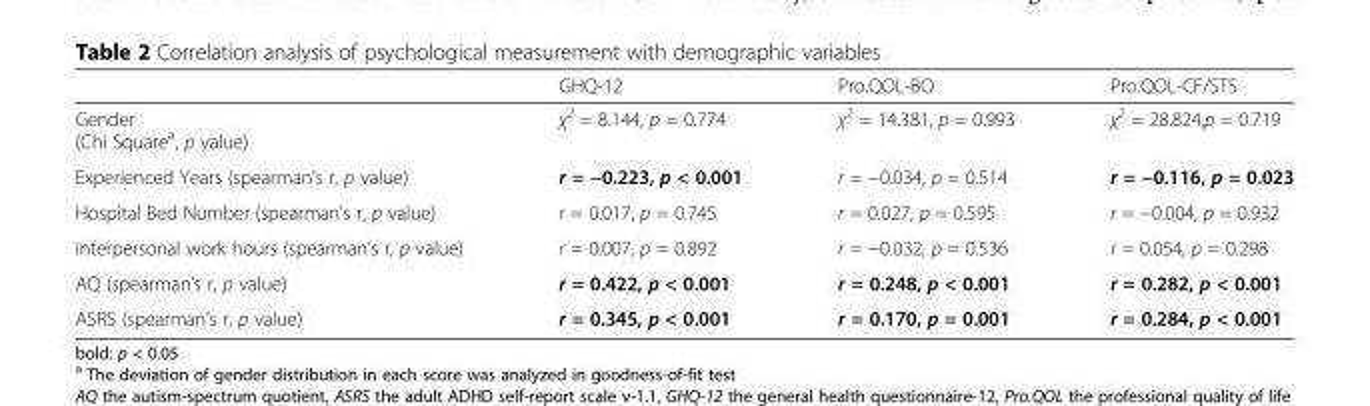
<table><thead><tr><td></td><td>GHQ-12</td><td>Pro.QOL-BO</td><td>Pro.QOL-CF/STS</td></tr></thead><tbody><tr><td>Gender (Chi Square<sup>a</sup>, p value)</td><td>χ<sup>2</sup> = 8.144, p = 0.774</td><td>χ<sup>2</sup> = 14.381, p = 0.993</td><td>χ<sup>2</sup> = 28.824,p = 0.719</td></tr><tr><td>Experienced Years (spearman’s r, p value)</td><td>r = −0.223, p &lt; 0.001</td><td>r = −0.034, p = 0.514</td><td>r = −0.116, p = 0.023</td></tr><tr><td>Hospital Bed Number (spearman’s r, p value)</td><td>r = 0.017, p = 0.745</td><td>r = 0.027, p = 0.595</td><td>r = −0.004, p = 0.932</td></tr><tr><td>interpersonal work hours (spearman’s r, p value)</td><td>r = 0.007, p = 0.892</td><td>r = −0.032, p = 0.536</td><td>r = 0.054, p = 0.298</td></tr><tr><td>AQ (spearman’s r, p value)</td><td>r = 0.422, p &lt; 0.001</td><td>r = 0.248, p &lt; 0.001</td><td>r = 0.282, p &lt; 0.001</td></tr><tr><td>ASRS (spearman’s r, p value)</td><td>r = 0.345, p &lt; 0.001</td><td>r = 0.170, p = 0.001</td><td>r = 0.284, p &lt; 0.001</td></tr></tbody></table>